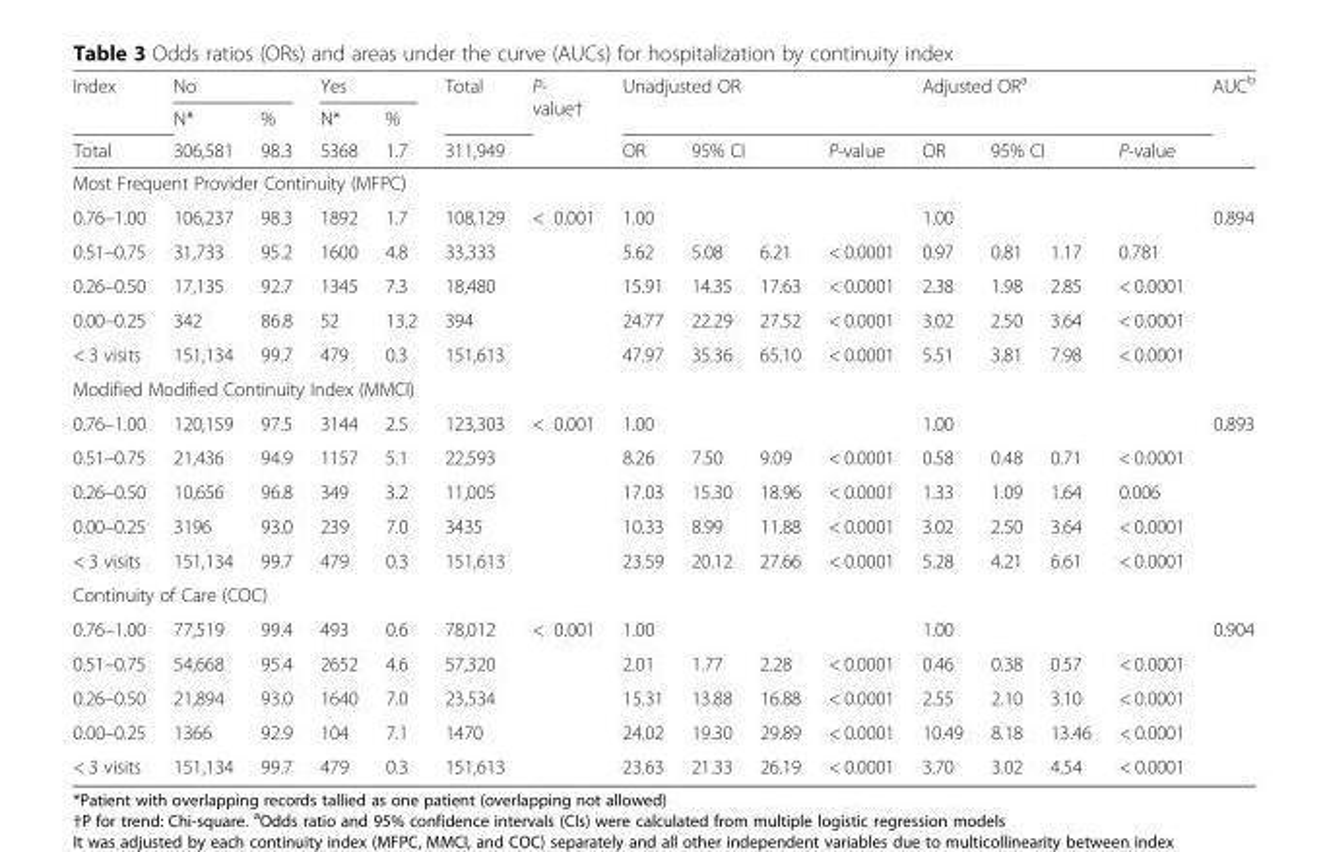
<table><thead><tr><td rowspan="3">Index Total</td><td colspan="2">No</td><td colspan="2">Yes</td><td rowspan="3">Total 311,949</td><td rowspan="3">P- value†</td><td rowspan="2" colspan="4">Unadjusted OR</td><td rowspan="2" colspan="4">Adjusted OR<sup>a</sup></td><td rowspan="3">AUC<sup>b</sup></td></tr><tr><td rowspan="2">N* 306,581</td><td rowspan="2">% 98.3</td><td rowspan="2">N* 5368</td><td rowspan="2">% 1.7</td></tr><tr><td>OR</td><td colspan="2">95% CI</td><td>P-value</td><td>OR</td><td colspan="2">95% CI</td><td>P-value</td></tr><tr><td colspan="16">Most Frequent Provider Continuity (MFPC)</td></tr><tr><td>0.76–1.00</td><td>106,237</td><td>98.3</td><td>1892</td><td>1.7</td><td>108,129</td><td>&lt; 0.001</td><td>1.00</td><td></td><td></td><td></td><td>1.00</td><td></td><td></td><td></td><td>0.894</td></tr></thead><tbody><tr><td>0.51–0.75</td><td>31,733</td><td>95.2</td><td>1600</td><td>4.8</td><td>33,333</td><td></td><td>5.62</td><td>5.08</td><td>6.21</td><td>&lt; 0.0001</td><td>0.97</td><td>0.81</td><td>1.17</td><td>0.781</td><td></td></tr><tr><td>0.26–0.50</td><td>17,135</td><td>92.7</td><td>1345</td><td>7.3</td><td>18,480</td><td></td><td>15.91</td><td>14.35</td><td>17.63</td><td>&lt; 0.0001</td><td>2.38</td><td>1.98</td><td>2.85</td><td>&lt; 0.0001</td><td></td></tr><tr><td>0.00–0.25</td><td>342</td><td>86.8</td><td>52</td><td>13.2</td><td>394</td><td></td><td>24.77</td><td>22.29</td><td>27.52</td><td>&lt; 0.0001</td><td>3.02</td><td>2.50</td><td>3.64</td><td>&lt; 0.0001</td><td></td></tr><tr><td>&lt; 3 visits</td><td>151,134</td><td>99.7</td><td>479</td><td>0.3</td><td>151,613</td><td></td><td>47.97</td><td>35.36</td><td>65.10</td><td>&lt; 0.0001</td><td>5.51</td><td>3.81</td><td>7.98</td><td>&lt; 0.0001</td><td></td></tr><tr><td colspan="16">Modified Modified Continuity Index (MMCI)</td></tr><tr><td>0.76–1.00</td><td>120,159</td><td>97.5</td><td>3144</td><td>2.5</td><td>123,303</td><td>&lt; 0.001</td><td>1.00</td><td></td><td></td><td></td><td>1.00</td><td></td><td></td><td></td><td>0.893</td></tr><tr><td>0.51–0.75</td><td>21,436</td><td>94.9</td><td>1157</td><td>5.1</td><td>22,593</td><td></td><td>8.26</td><td>7.50</td><td>9.09</td><td>&lt; 0.0001</td><td>0.58</td><td>0.48</td><td>0.71</td><td>&lt; 0.0001</td><td></td></tr><tr><td>0.26–0.50</td><td>10,656</td><td>96.8</td><td>349</td><td>3.2</td><td>11,005</td><td></td><td>17.03</td><td>15.30</td><td>18.96</td><td>&lt; 0.0001</td><td>1.33</td><td>1.09</td><td>1.64</td><td>0.006</td><td></td></tr><tr><td>0.00–0.25</td><td>3196</td><td>93.0</td><td>239</td><td>7.0</td><td>3435</td><td></td><td>10.33</td><td>8.99</td><td>11.88</td><td>&lt; 0.0001</td><td>3.02</td><td>2.50</td><td>3.64</td><td>&lt; 0.0001</td><td></td></tr><tr><td>&lt; 3 visits</td><td>151,134</td><td>99.7</td><td>479</td><td>0.3</td><td>151,613</td><td></td><td>23.59</td><td>20.12</td><td>27.66</td><td>&lt; 0.0001</td><td>5.28</td><td>4.21</td><td>6.61</td><td>&lt; 0.0001</td><td></td></tr><tr><td colspan="16">Continuity of Care (COC)</td></tr><tr><td>0.76–1.00</td><td>77,519</td><td>99.4</td><td>493</td><td>0.6</td><td>78,012</td><td>&lt; 0.001</td><td>1.00</td><td></td><td></td><td></td><td>1.00</td><td></td><td></td><td></td><td>0.904</td></tr><tr><td>0.51–0.75</td><td>54,668</td><td>95.4</td><td>2652</td><td>4.6</td><td>57,320</td><td></td><td>2.01</td><td>1.77</td><td>2.28</td><td>&lt; 0.0001</td><td>0.46</td><td>0.38</td><td>0.57</td><td>&lt; 0.0001</td><td></td></tr><tr><td>0.26–0.50</td><td>21,894</td><td>93.0</td><td>1640</td><td>7.0</td><td>23,534</td><td></td><td>15.31</td><td>13.88</td><td>16.88</td><td>&lt; 0.0001</td><td>2.55</td><td>2.10</td><td>3.10</td><td>&lt; 0.0001</td><td></td></tr><tr><td>0.00–0.25</td><td>1366</td><td>92.9</td><td>104</td><td>7.1</td><td>1470</td><td></td><td>24.02</td><td>19.30</td><td>29.89</td><td>&lt; 0.0001</td><td>10.49</td><td>8.18</td><td>13.46</td><td>&lt; 0.0001</td><td></td></tr><tr><td>&lt; 3 visits</td><td>151,134</td><td>99.7</td><td>479</td><td>0.3</td><td>151,613</td><td></td><td>23.63</td><td>21.33</td><td>26.19</td><td>&lt; 0.0001</td><td>3.70</td><td>3.02</td><td>4.54</td><td>&lt; 0.0001</td><td></td></tr></tbody></table>